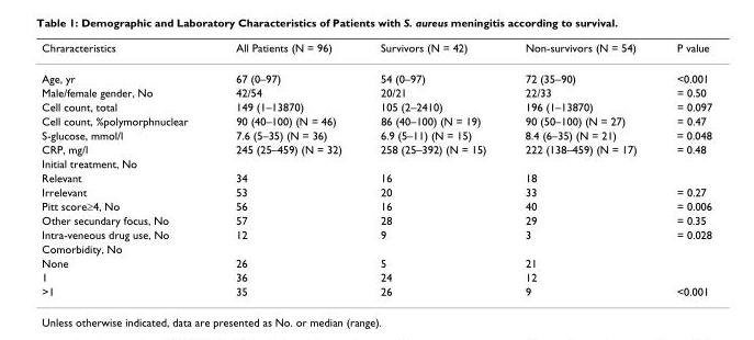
<table><thead><tr><td>Chraracteristics</td><td>All Patients (N = 96)</td><td>Survivors (N = 42)</td><td>Non-survivors (N = 54)</td><td>P value</td></tr></thead><tbody><tr><td>Age, yr</td><td>67 (0–97)</td><td>54 (0–97)</td><td>72 (35–90)</td><td>&lt;0.001</td></tr><tr><td>Male/female gender, No</td><td>42/54</td><td>20/21</td><td>22/33</td><td>= 0.50</td></tr><tr><td>Cell count, total</td><td>149 (1–13870)</td><td>105 (2–2410)</td><td>196 (1–13870)</td><td>= 0.097</td></tr><tr><td>Cell count, %polymorphnuclear</td><td>90 (40–100) (N = 46)</td><td>86 (40–100) (N = 19)</td><td>90 (50–100) (N = 27)</td><td>= 0.47</td></tr><tr><td>S-glucose, mmol/l</td><td>7.6 (5–35) (N = 36)</td><td>6.9 (5–11) (N = 15)</td><td>8.4 (6–35) (N = 21)</td><td>= 0.048</td></tr><tr><td>CRP, mg/l</td><td>245 (25–459) (N = 32)</td><td>258 (25–392) (N = 15)</td><td>222 (138–459) (N = 17)</td><td>= 0.48</td></tr><tr><td colspan="5">Initial treatment, No</td></tr><tr><td>Relevant</td><td>34</td><td>16</td><td>18</td><td></td></tr><tr><td>Irrelevant</td><td>53</td><td>20</td><td>33</td><td>= 0.27</td></tr><tr><td>Pitt score≥4, No</td><td>56</td><td>16</td><td>40</td><td>= 0.006</td></tr><tr><td>Other secundary focus, No</td><td>57</td><td>28</td><td>29</td><td>= 0.35</td></tr><tr><td>Intra-veneous drug use, No</td><td>12</td><td>9</td><td>3</td><td>= 0.028</td></tr><tr><td colspan="5">Comorbidity, No</td></tr><tr><td>None</td><td>26</td><td>5</td><td>21</td><td></td></tr><tr><td>1</td><td>36</td><td>24</td><td>12</td><td></td></tr><tr><td>&gt;1</td><td>35</td><td>26</td><td>9</td><td>&lt;0.001</td></tr></tbody></table>